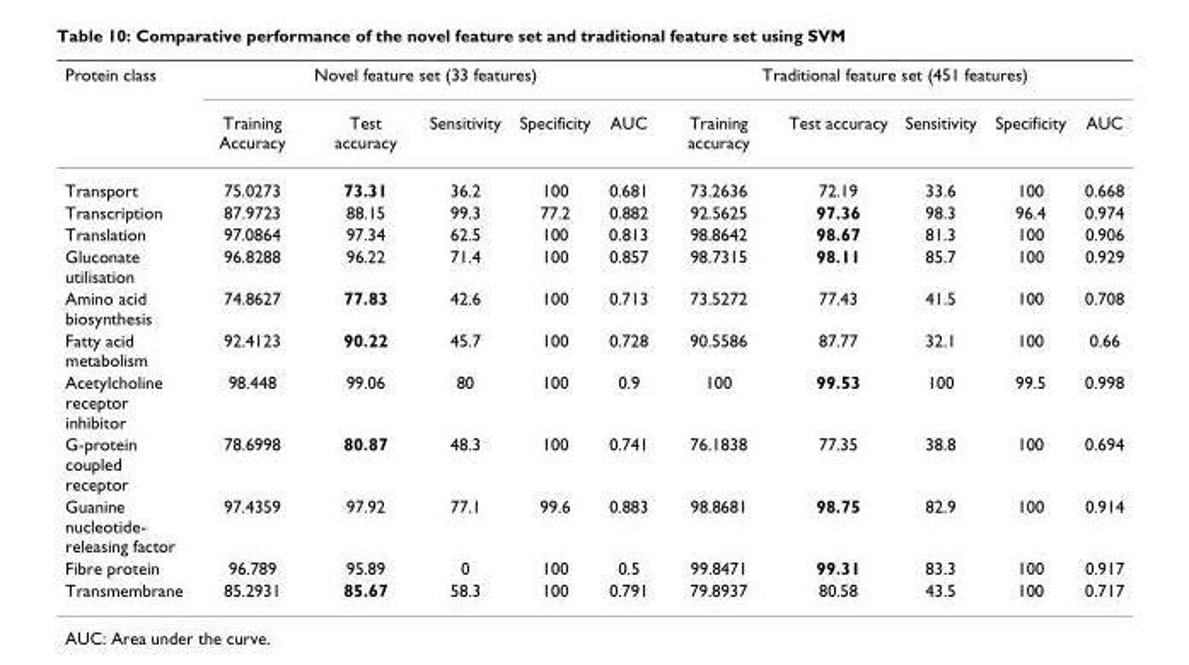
<table><thead><tr><td rowspan="2">Protein class</td><td colspan="5">Novel feature set (33 features)</td><td colspan="5">Traditional feature set (451 features)</td></tr><tr><td>Training Accuracy</td><td>Test accuracy</td><td>Sensitivity</td><td>Specificity</td><td>AUC</td><td>Training accuracy</td><td>Test accuracy</td><td>Sensitivity</td><td>Specificity</td><td>AUC</td></tr></thead><tbody><tr><td>Transport</td><td>75.0273</td><td>73.31</td><td>36.2</td><td>100</td><td>0.681</td><td>73.2636</td><td>72.19</td><td>33.6</td><td>100</td><td>0.668</td></tr><tr><td>Transcription</td><td>87.9723</td><td>88.15</td><td>99.3</td><td>77.2</td><td>0.882</td><td>92.5625</td><td>97.36</td><td>98.3</td><td>96.4</td><td>0.974</td></tr><tr><td>Translation</td><td>97.0864</td><td>97.34</td><td>62.5</td><td>100</td><td>0.813</td><td>98.8642</td><td>98.67</td><td>81.3</td><td>100</td><td>0.906</td></tr><tr><td>Gluconate utilisation</td><td>96.8288</td><td>96.22</td><td>71.4</td><td>100</td><td>0.857</td><td>98.7315</td><td>98.11</td><td>85.7</td><td>100</td><td>0.929</td></tr><tr><td>Amino acid biosynthesis</td><td>74.8627</td><td>77.83</td><td>42.6</td><td>100</td><td>0.713</td><td>73.5272</td><td>77.43</td><td>41.5</td><td>100</td><td>0.708</td></tr><tr><td>Fatty acid metabolism</td><td>92.4123</td><td>90.22</td><td>45.7</td><td>100</td><td>0.728</td><td>90.5586</td><td>87.77</td><td>32.1</td><td>100</td><td>0.66</td></tr><tr><td>Acetylcholine receptor inhibitor</td><td>98.448</td><td>99.06</td><td>80</td><td>100</td><td>0.9</td><td>100</td><td>99.53</td><td>100</td><td>99.5</td><td>0.998</td></tr><tr><td>G-protein coupled receptor</td><td>78.6998</td><td>80.87</td><td>48.3</td><td>100</td><td>0.741</td><td>76.1838</td><td>77.35</td><td>38.8</td><td>100</td><td>0.694</td></tr><tr><td>Guanine nucleotide- releasing factor</td><td>97.4359</td><td>97.92</td><td>77.1</td><td>99.6</td><td>0.883</td><td>98.8681</td><td>98.75</td><td>82.9</td><td>100</td><td>0.914</td></tr><tr><td>Fibre protein</td><td>96.789</td><td>95.89</td><td>0</td><td>100</td><td>0.5</td><td>99.8471</td><td>99.31</td><td>83.3</td><td>100</td><td>0.917</td></tr><tr><td>Transmembrane</td><td>85.2931</td><td>85.67</td><td>58.3</td><td>100</td><td>0.791</td><td>79.8937</td><td>80.58</td><td>43.5</td><td>100</td><td>0.717</td></tr></tbody></table>